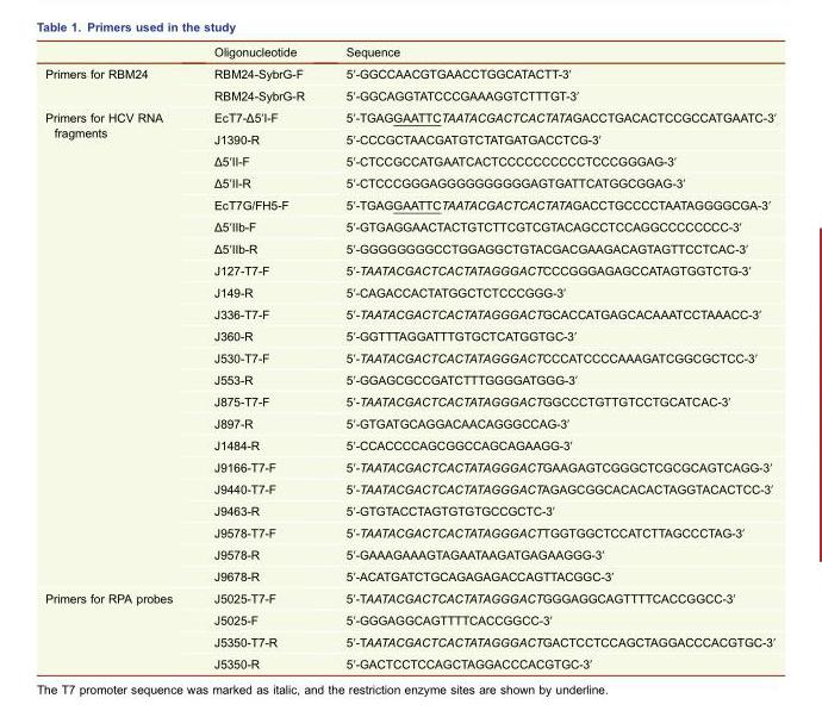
<table><thead><tr><td></td><td>Oligonucleotide</td><td>Sequence</td></tr></thead><tbody><tr><td rowspan="2">Primers for RBM24</td><td>RBM24-SybrG-F</td><td>5′-GGCCAACGTGAACCTGGCATACTT-3′</td></tr><tr><td>RBM24-SybrG-R</td><td>5′-GGCAGGTATCCCGAAAGGTCTTTGT-3′</td></tr><tr><td rowspan="22">Primers for HCV RNA fragments</td><td>EcT7-Δ5′I-F</td><td>5′-TGAGGAATTCTAATACGACTCACTATAGACCTGACACTCCGCCATGAATC-3′</td></tr><tr><td>J1390-R</td><td>5′-CCCGCTAACGATGTCTATGATGACCTCG-3′</td></tr><tr><td>Δ5′II-F</td><td>5′-CTCCGCCATGAATCACTCCCCCCCCCCTCCCGGGAG-3′</td></tr><tr><td>Δ5′II-R</td><td>5′-CTCCCGGGAGGGGGGGGGGAGTGATTCATGGCGGAG-3′</td></tr><tr><td>EcT7G/FH5-F</td><td>5′-TGAGGAATTCTAATACGACTCACTATAGACCTGCCCCTAATAGGGGCGA-3′</td></tr><tr><td>Δ5′IIb-F</td><td>5′-GTGAGGAACTACTGTCTTCGTCGTACAGCCTCCAGGCCCCCCCC-3′</td></tr><tr><td>Δ5′IIb-R</td><td>5′-GGGGGGGGCCTGGAGGCTGTACGACGAAGACAGTAGTTCCTCAC-3′</td></tr><tr><td>J127-T7-F</td><td>5′-TAATACGACTCACTATAGGGACTCCCGGGAGAGCCATAGTGGTCTG-3′</td></tr><tr><td>J149-R</td><td>5′-CAGACCACTATGGCTCTCCCGGG-3′</td></tr><tr><td>J336-T7-F</td><td>5′-TAATACGACTCACTATAGGGACTGCACCATGAGCACAAATCCTAAACC-3′</td></tr><tr><td>J360-R</td><td>5′-GGTTTAGGATTTGTGCTCATGGTGC-3′</td></tr><tr><td>J530-T7-F</td><td>5′-TAATACGACTCACTATAGGGACTCCCATCCCCAAAGATCGGCGCTCC-3′</td></tr><tr><td>J553-R</td><td>5′-GGAGCGCCGATCTTTGGGGATGGG-3′</td></tr><tr><td>J875-T7-F</td><td>5′-TAATACGACTCACTATAGGGACTGGCCCTGTTGTCCTGCATCAC-3′</td></tr><tr><td>J897-R</td><td>5′-GTGATGCAGGACAACAGGGCCAG-3′</td></tr><tr><td>J1484-R</td><td>5′-CCACCCCAGCGGCCAGCAGAAGG-3′</td></tr><tr><td>J9166-T7-F</td><td>5′-TAATACGACTCACTATAGGGACTGAAGAGTCGGGCTCGCGCAGTCAGG-3′</td></tr><tr><td>J9440-T7-F</td><td>5′-TAATACGACTCACTATAGGGACTAGAGCGGCACACACTAGGTACACTCC-3′</td></tr><tr><td>J9463-R</td><td>5′-GTGTACCTAGTGTGTGCCGCTC-3′</td></tr><tr><td>J9578-T7-F</td><td>5′-TAATACGACTCACTATAGGGACTTGGTGGCTCCATCTTAGCCCTAG-3′</td></tr><tr><td>J9578-R</td><td>5′-GAAAGAAAGTAGAATAAGATGAGAAGGG-3′</td></tr><tr><td>J9678-R</td><td>5′-ACATGATCTGCAGAGAGACCAGTTACGGC-3′</td></tr><tr><td rowspan="4">Primers for RPA probes</td><td>J5025-T7-F</td><td>5′-TAATACGACTCACTATAGGGACTGGGAGGCAGTTTTCACCGGCC-3′</td></tr><tr><td>J5025-F</td><td>5′-GGGAGGCAGTTTTCACCGGCC-3′</td></tr><tr><td>J5350-T7-R</td><td>5′-TAATACGACTCACTATAGGGACTGACTCCTCCAGCTAGGACCCACGTGC-3′</td></tr><tr><td>J5350-R</td><td>5′-GACTCCTCCAGCTAGGACCCACGTGC-3′</td></tr></tbody></table>